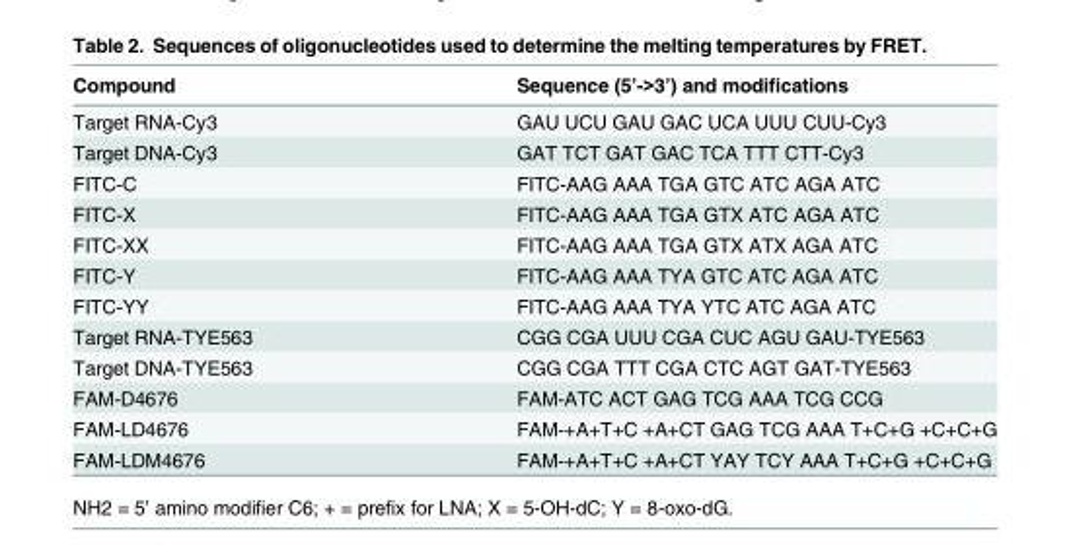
<table><thead><tr><td>Compound</td><td>Sequence (5’-&gt;3’) and modifications</td></tr></thead><tbody><tr><td>Target RNA-Cy3</td><td>GAU UCU GAU GAC UCA UUU CUU-Cy3</td></tr><tr><td>Target DNA-Cy3</td><td>GAT TCT GAT GAC TCA TTT CTT-Cy3</td></tr><tr><td>FITC-C</td><td>FITC-AAG AAA TGA GTC ATC AGA ATC</td></tr><tr><td>FITC-X</td><td>FITC-AAG AAA TGA GTX ATC AGA ATC</td></tr><tr><td>FITC-XX</td><td>FITC-AAG AAA TGA GTX ATX AGA ATC</td></tr><tr><td>FITC-Y</td><td>FITC-AAG AAA TYA GTC ATC AGA ATC</td></tr><tr><td>FITC-YY</td><td>FITC-AAG AAA TYA YTC ATC AGA ATC</td></tr><tr><td>Target RNA-TYE563</td><td>CGG CGA UUU CGA CUC AGU GAU-TYE563</td></tr><tr><td>Target DNA-TYE563</td><td>CGG CGA TTT CGA CTC AGT GAT-TYE563</td></tr><tr><td>FAM-D4676</td><td>FAM-ATC ACT GAG TCG AAA TCG CCG</td></tr><tr><td>FAM-LD4676</td><td>FAM-+A+T+C +A+CT GAG TCG AAA T+C+G +C+C+G</td></tr><tr><td>FAM-LDM4676</td><td>FAM-+A+T+C +A+CT YAY TCY AAA T+C+G +C+C+G</td></tr></tbody></table>